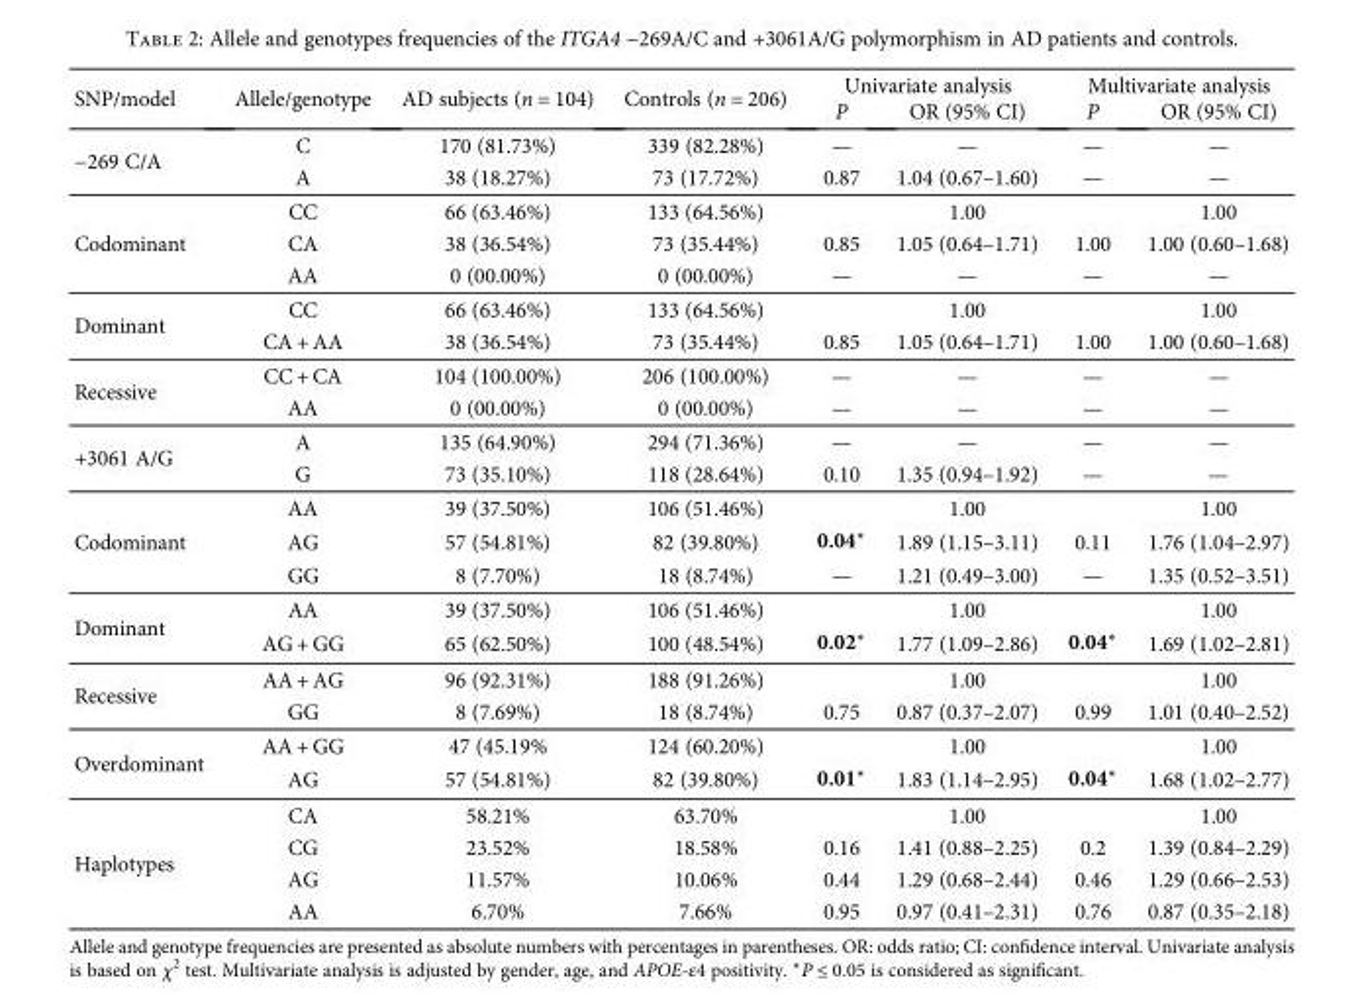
<table><thead><tr><td rowspan="2">SNP/model</td><td rowspan="2">Allele/genotype</td><td rowspan="2">AD subjects (n = 104)</td><td rowspan="2">Controls (n = 206)</td><td colspan="2">Univariate analysis</td><td colspan="2">Multivariate analysis</td></tr><tr><td>P</td><td>OR (95% CI)</td><td>P</td><td>OR (95% CI)</td></tr></thead><tbody><tr><td rowspan="2">−269 C/A</td><td>C</td><td>170 (81.73%)</td><td>339 (82.28%)</td><td>—</td><td>—</td><td>—</td><td>—</td></tr><tr><td>A</td><td>38 (18.27%)</td><td>73 (17.72%)</td><td>0.87</td><td>1.04 (0.67–1.60)</td><td>—</td><td>—</td></tr><tr><td rowspan="3">Codominant</td><td>CC</td><td>66 (63.46%)</td><td>133 (64.56%)</td><td></td><td>1.00</td><td></td><td>1.00</td></tr><tr><td>CA</td><td>38 (36.54%)</td><td>73 (35.44%)</td><td>0.85</td><td>1.05 (0.64–1.71)</td><td>1.00</td><td>1.00 (0.60–1.68)</td></tr><tr><td>AA</td><td>0 (00.00%)</td><td>0 (00.00%)</td><td>—</td><td>—</td><td>—</td><td>—</td></tr><tr><td rowspan="2">Dominant</td><td>CC</td><td>66 (63.46%)</td><td>133 (64.56%)</td><td></td><td>1.00</td><td></td><td>1.00</td></tr><tr><td>CA + AA</td><td>38 (36.54%)</td><td>73 (35.44%)</td><td>0.85</td><td>1.05 (0.64–1.71)</td><td>1.00</td><td>1.00 (0.60–1.68)</td></tr><tr><td rowspan="2">Recessive</td><td>CC + CA</td><td>104 (100.00%)</td><td>206 (100.00%)</td><td>—</td><td>—</td><td>—</td><td>—</td></tr><tr><td>AA</td><td>0 (00.00%)</td><td>0 (00.00%)</td><td>—</td><td>—</td><td>—</td><td>—</td></tr><tr><td rowspan="2">+3061 A/G</td><td>A</td><td>135 (64.90%)</td><td>294 (71.36%)</td><td>—</td><td>—</td><td>—</td><td>—</td></tr><tr><td>G</td><td>73 (35.10%)</td><td>118 (28.64%)</td><td>0.10</td><td>1.35 (0.94–1.92)</td><td>—</td><td>—</td></tr><tr><td rowspan="3">Codominant</td><td>AA</td><td>39 (37.50%)</td><td>106 (51.46%)</td><td></td><td>1.00</td><td></td><td>1.00</td></tr><tr><td>AG</td><td>57 (54.81%)</td><td>82 (39.80%)</td><td>0.04∗</td><td>1.89 (1.15–3.11)</td><td>0.11</td><td>1.76 (1.04–2.97)</td></tr><tr><td>GG</td><td>8 (7.70%)</td><td>18 (8.74%)</td><td>—</td><td>1.21 (0.49–3.00)</td><td>—</td><td>1.35 (0.52–3.51)</td></tr><tr><td rowspan="2">Dominant</td><td>AA</td><td>39 (37.50%)</td><td>106 (51.46%)</td><td></td><td>1.00</td><td></td><td>1.00</td></tr><tr><td>AG + GG</td><td>65 (62.50%)</td><td>100 (48.54%)</td><td>0.02∗</td><td>1.77 (1.09–2.86)</td><td>0.04∗</td><td>1.69 (1.02–2.81)</td></tr><tr><td rowspan="2">Recessive</td><td>AA + AG</td><td>96 (92.31%)</td><td>188 (91.26%)</td><td></td><td>1.00</td><td></td><td>1.00</td></tr><tr><td>GG</td><td>8 (7.69%)</td><td>18 (8.74%)</td><td>0.75</td><td>0.87 (0.37–2.07)</td><td>0.99</td><td>1.01 (0.40–2.52)</td></tr><tr><td rowspan="2">Overdominant</td><td>AA + GG</td><td>47 (45.19%</td><td>124 (60.20%)</td><td></td><td>1.00</td><td></td><td>1.00</td></tr><tr><td>AG</td><td>57 (54.81%)</td><td>82 (39.80%)</td><td>0.01∗</td><td>1.83 (1.14–2.95)</td><td>0.04∗</td><td>1.68 (1.02–2.77)</td></tr><tr><td rowspan="4">Haplotypes</td><td>CA</td><td>58.21%</td><td>63.70%</td><td></td><td>1.00</td><td></td><td>1.00</td></tr><tr><td>CG</td><td>23.52%</td><td>18.58%</td><td>0.16</td><td>1.41 (0.88–2.25)</td><td>0.2</td><td>1.39 (0.84–2.29)</td></tr><tr><td>AG</td><td>11.57%</td><td>10.06%</td><td>0.44</td><td>1.29 (0.68–2.44)</td><td>0.46</td><td>1.29 (0.66–2.53)</td></tr><tr><td>AA</td><td>6.70%</td><td>7.66%</td><td>0.95</td><td>0.97 (0.41–2.31)</td><td>0.76</td><td>0.87 (0.35–2.18)</td></tr></tbody></table>